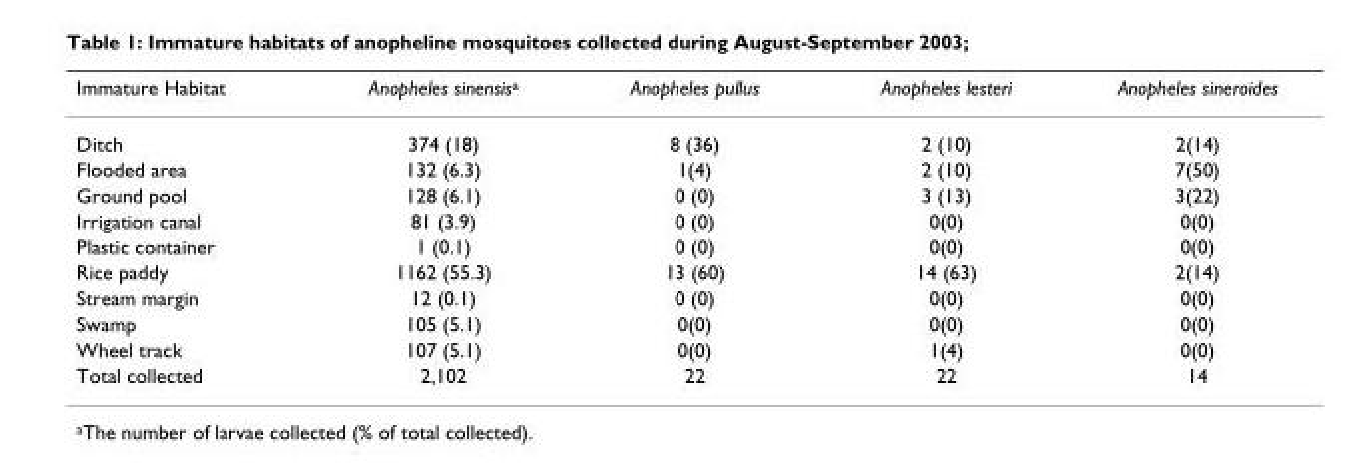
<table><thead><tr><td>Immature Habitat</td><td>Anopheles sinensis<sup>a</sup></td><td>Anopheles pullus</td><td>Anopheles lesteri</td><td>Anopheles sineroides</td></tr></thead><tbody><tr><td>Ditch</td><td>374 (18)</td><td>8 (36)</td><td>2 (10)</td><td>2(14)</td></tr><tr><td>Flooded area</td><td>132 (6.3)</td><td>1(4)</td><td>2 (10)</td><td>7(50)</td></tr><tr><td>Ground pool</td><td>128 (6.1)</td><td>0 (0)</td><td>3 (13)</td><td>3(22)</td></tr><tr><td>Irrigation canal</td><td>81 (3.9)</td><td>0 (0)</td><td>0(0)</td><td>0(0)</td></tr><tr><td>Plastic container</td><td>1 (0.1)</td><td>0 (0)</td><td>0(0)</td><td>0(0)</td></tr><tr><td>Rice paddy</td><td>1162 (55.3)</td><td>13 (60)</td><td>14 (63)</td><td>2(14)</td></tr><tr><td>Stream margin</td><td>12 (0.1)</td><td>0 (0)</td><td>0(0)</td><td>0(0)</td></tr><tr><td>Swamp</td><td>105 (5.1)</td><td>0(0)</td><td>0(0)</td><td>0(0)</td></tr><tr><td>Wheel track</td><td>107 (5.1)</td><td>0(0)</td><td>1(4)</td><td>0(0)</td></tr><tr><td>Total collected</td><td>2,102</td><td>22</td><td>22</td><td>14</td></tr></tbody></table>